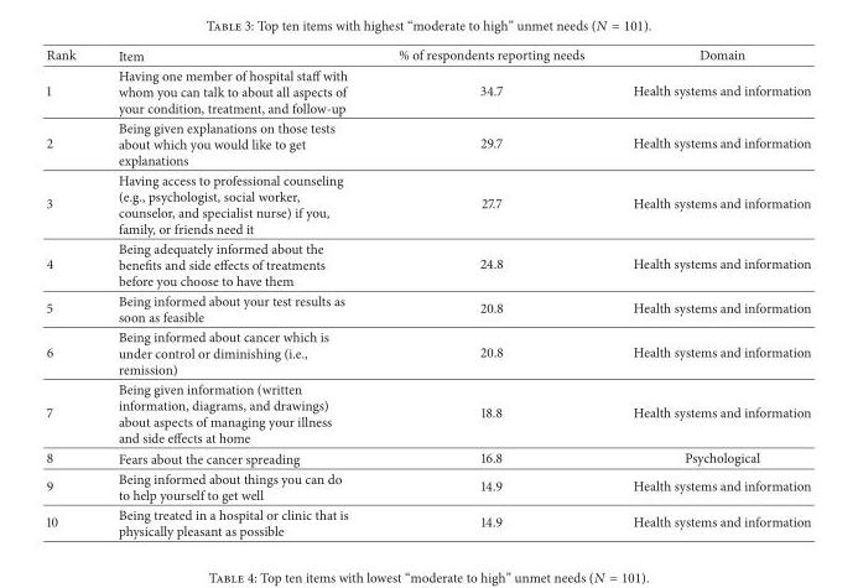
<table><thead><tr><td>Rank</td><td>Item</td><td>% of respondents reporting needs</td><td>Domain</td></tr></thead><tbody><tr><td>1</td><td>Having one member of hospital staff with whom you can talk to about all aspects of your condition, treatment, and follow-up</td><td>34.7</td><td>Health systems and information</td></tr><tr><td>2</td><td>Being given explanations on those tests about which you would like to get explanations</td><td>29.7</td><td>Health systems and information</td></tr><tr><td>3</td><td>Having access to professional counseling (e.g., psychologist, social worker, counselor, and specialist nurse) if you, family, or friends need it</td><td>27.7</td><td>Health systems and information</td></tr><tr><td>4</td><td>Being adequately informed about the benefits and side effects of treatments before you choose to have them</td><td>24.8</td><td>Health systems and information</td></tr><tr><td>5</td><td>Being informed about your test results as soon as feasible</td><td>20.8</td><td>Health systems and information</td></tr><tr><td>6</td><td>Being informed about cancer which is under control or diminishing (i.e., remission)</td><td>20.8</td><td>Health systems and information</td></tr><tr><td>7</td><td>Being given information (written information, diagrams, and drawings) about aspects of managing your illness and side effects at home</td><td>18.8</td><td>Health systems and information</td></tr><tr><td>8</td><td>Fears about the cancer spreading</td><td>16.8</td><td>Psychological</td></tr><tr><td>9</td><td>Being informed about things you can do to help yourself to get well</td><td>14.9</td><td>Health systems and information</td></tr><tr><td>10</td><td>Being treated in a hospital or clinic that is physically pleasant as possible</td><td>14.9</td><td>Health systems and information</td></tr></tbody></table>